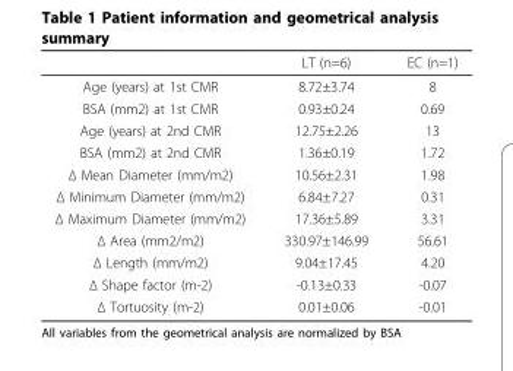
<table><thead><tr><td></td><td>LT (n=6)</td><td>EC (n=1)</td></tr></thead><tbody><tr><td>Age (years) at 1st CMR</td><td>8.72±3.74</td><td>8</td></tr><tr><td>BSA (mm2) at 1st CMR</td><td>0.93±0.24</td><td>0.69</td></tr><tr><td>Age (years) at 2nd CMR</td><td>12.75±2.26</td><td>13</td></tr><tr><td>BSA (mm2) at 2nd CMR</td><td>1.36±0.19</td><td>1.72</td></tr><tr><td>Δ Mean Diameter (mm/m2)</td><td>10.56±2.31</td><td>1.98</td></tr><tr><td>Δ Minimum Diameter (mm/m2)</td><td>6.84±7.27</td><td>0.31</td></tr><tr><td>Δ Maximum Diameter (mm/m2)</td><td>17.36±5.89</td><td>3.31</td></tr><tr><td>Δ Area (mm2/m2)</td><td>330.97±146.99</td><td>56.61</td></tr><tr><td>Δ Length (mm/m2)</td><td>9.04±17.45</td><td>4.20</td></tr><tr><td>Δ Shape factor (m-2)</td><td>-0.13±0.33</td><td>-0.07</td></tr><tr><td>Δ Tortuosity (m-2)</td><td>0.01±0.06</td><td>-0.01</td></tr></tbody></table>